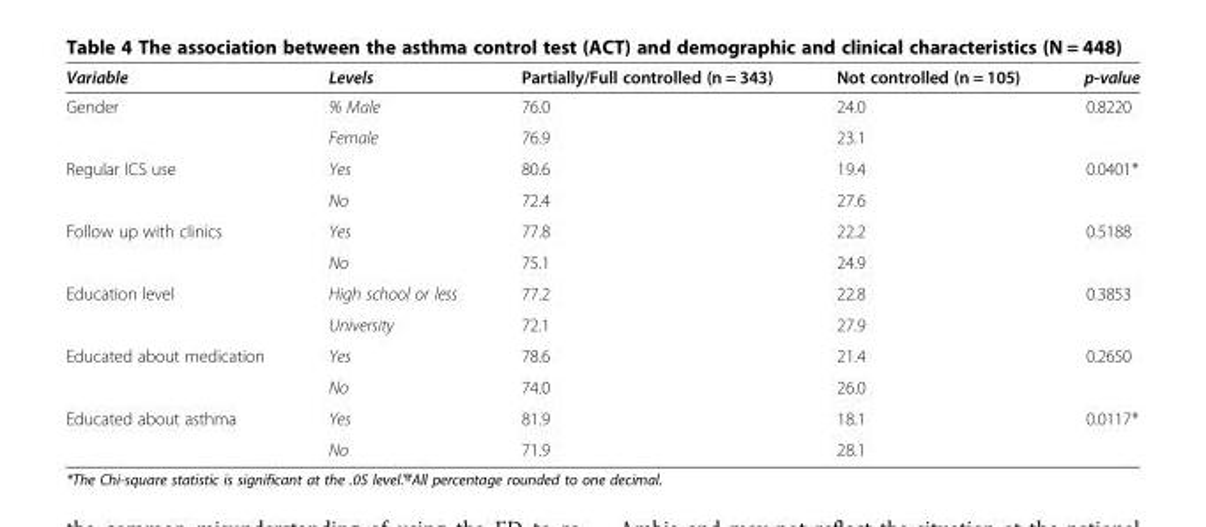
<table><thead><tr><td>Variable</td><td>Levels</td><td>Partially/Full controlled (n = 343)</td><td>Not controlled (n = 105)</td><td>p-value</td></tr></thead><tbody><tr><td rowspan="2">Gender</td><td>% Male</td><td>76.0</td><td>24.0</td><td rowspan="2">0.8220</td></tr><tr><td>Female</td><td>76.9</td><td>23.1</td></tr><tr><td rowspan="2">Regular ICS use</td><td>Yes</td><td>80.6</td><td>19.4</td><td rowspan="2">0.0401*</td></tr><tr><td>No</td><td>72.4</td><td>27.6</td></tr><tr><td rowspan="2">Follow up with clinics</td><td>Yes</td><td>77.8</td><td>22.2</td><td rowspan="2">0.5188</td></tr><tr><td>No</td><td>75.1</td><td>24.9</td></tr><tr><td rowspan="2">Education level</td><td>High school or less</td><td>77.2</td><td>22.8</td><td rowspan="2">0.3853</td></tr><tr><td>University</td><td>72.1</td><td>27.9</td></tr><tr><td rowspan="2">Educated about medication</td><td>Yes</td><td>78.6</td><td>21.4</td><td rowspan="2">0.2650</td></tr><tr><td>No</td><td>74.0</td><td>26.0</td></tr><tr><td rowspan="2">Educated about asthma</td><td>Yes</td><td>81.9</td><td>18.1</td><td rowspan="2">0.0117*</td></tr><tr><td>No</td><td>71.9</td><td>28.1</td></tr></tbody></table>